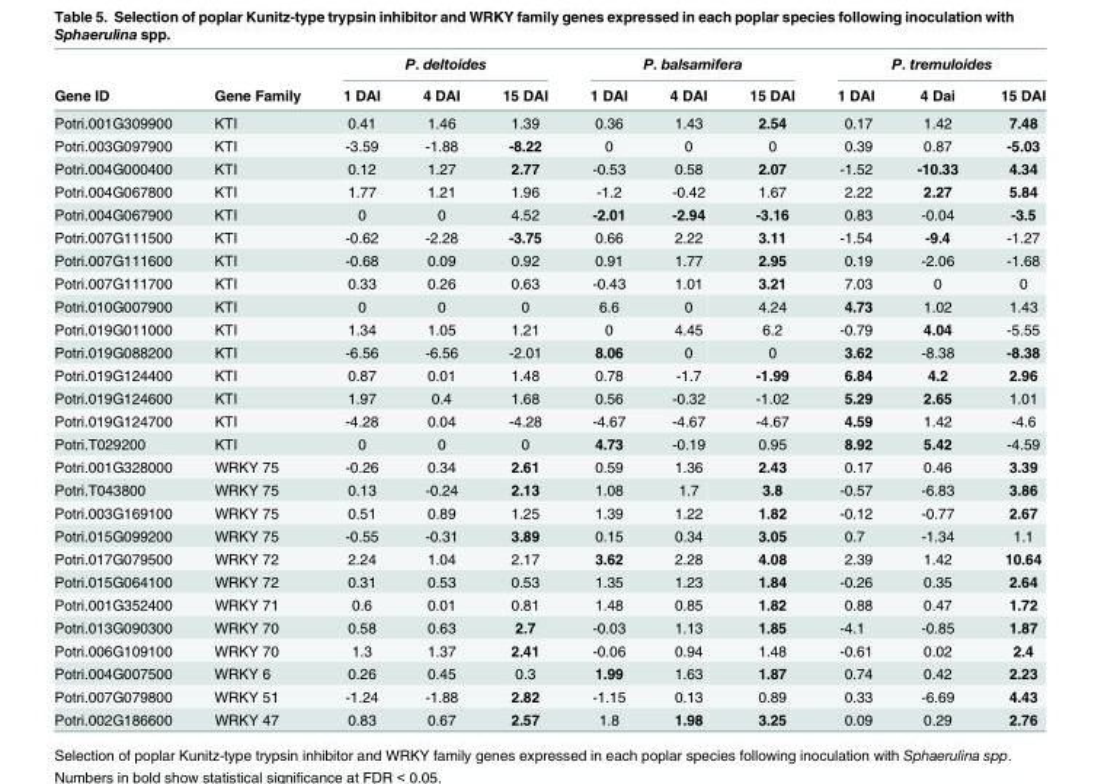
<table><thead><tr><td rowspan="2">Gene ID</td><td rowspan="2">Gene Family</td><td colspan="3">P. deltoides</td><td colspan="3">P. balsamifera</td><td colspan="3">P. tremuloides</td></tr><tr><td>1 DAI</td><td>4 DAI</td><td>15 DAI</td><td>1 DAI</td><td>4 DAI</td><td>15 DAI</td><td>1 DAI</td><td>4 Dai</td><td>15 DAI</td></tr></thead><tbody><tr><td>Potri.001G309900</td><td>KTI</td><td>0.41</td><td>1.46</td><td>1.39</td><td>0.36</td><td>1.43</td><td>2.54</td><td>0.17</td><td>1.42</td><td>7.48</td></tr><tr><td>Potri.003G097900</td><td>KTI</td><td>-3.59</td><td>-1.88</td><td>-8.22</td><td>0</td><td>0</td><td>0</td><td>0.39</td><td>0.87</td><td>-5.03</td></tr><tr><td>Potri.004G000400</td><td>KTI</td><td>0.12</td><td>1.27</td><td>2.77</td><td>-0.53</td><td>0.58</td><td>2.07</td><td>-1.52</td><td>-10.33</td><td>4.34</td></tr><tr><td>Potri.004G067800</td><td>KTI</td><td>1.77</td><td>1.21</td><td>1.96</td><td>-1.2</td><td>-0.42</td><td>1.67</td><td>2.22</td><td>2.27</td><td>5.84</td></tr><tr><td>Potri.004G067900</td><td>KTI</td><td>0</td><td>0</td><td>4.52</td><td>-2.01</td><td>-2.94</td><td>-3.16</td><td>0.83</td><td>-0.04</td><td>-3.5</td></tr><tr><td>Potri.007G111500</td><td>KTI</td><td>-0.62</td><td>-2.28</td><td>-3.75</td><td>0.66</td><td>2.22</td><td>3.11</td><td>-1.54</td><td>-9.4</td><td>-1.27</td></tr><tr><td>Potri.007G111600</td><td>KTI</td><td>-0.68</td><td>0.09</td><td>0.92</td><td>0.91</td><td>1.77</td><td>2.95</td><td>0.19</td><td>-2.06</td><td>-1.68</td></tr><tr><td>Potri.007G111700</td><td>KTI</td><td>0.33</td><td>0.26</td><td>0.63</td><td>-0.43</td><td>1.01</td><td>3.21</td><td>7.03</td><td>0</td><td>0</td></tr><tr><td>Potri.010G007900</td><td>KTI</td><td>0</td><td>0</td><td>0</td><td>6.6</td><td>0</td><td>4.24</td><td>4.73</td><td>1.02</td><td>1.43</td></tr><tr><td>Potri.019G011000</td><td>KTI</td><td>1.34</td><td>1.05</td><td>1.21</td><td>0</td><td>4.45</td><td>6.2</td><td>-0.79</td><td>4.04</td><td>-5.55</td></tr><tr><td>Potri.019G088200</td><td>KTI</td><td>-6.56</td><td>-6.56</td><td>-2.01</td><td>8.06</td><td>0</td><td>0</td><td>3.62</td><td>-8.38</td><td>-8.38</td></tr><tr><td>Potri.019G124400</td><td>KTI</td><td>0.87</td><td>0.01</td><td>1.48</td><td>0.78</td><td>-1.7</td><td>-1.99</td><td>6.84</td><td>4.2</td><td>2.96</td></tr><tr><td>Potri.019G124600</td><td>KTI</td><td>1.97</td><td>0.4</td><td>1.68</td><td>0.56</td><td>-0.32</td><td>-1.02</td><td>5.29</td><td>2.65</td><td>1.01</td></tr><tr><td>Potri.019G124700</td><td>KTI</td><td>-4.28</td><td>0.04</td><td>-4.28</td><td>-4.67</td><td>-4.67</td><td>-4.67</td><td>4.59</td><td>1.42</td><td>-4.6</td></tr><tr><td>Potri.T029200</td><td>KTI</td><td>0</td><td>0</td><td>0</td><td>4.73</td><td>-0.19</td><td>0.95</td><td>8.92</td><td>5.42</td><td>-4.59</td></tr><tr><td>Potri.001G328000</td><td>WRKY 75</td><td>-0.26</td><td>0.34</td><td>2.61</td><td>0.59</td><td>1.36</td><td>2.43</td><td>0.17</td><td>0.46</td><td>3.39</td></tr><tr><td>Potri.T043800</td><td>WRKY 75</td><td>0.13</td><td>-0.24</td><td>2.13</td><td>1.08</td><td>1.7</td><td>3.8</td><td>-0.57</td><td>-6.83</td><td>3.86</td></tr><tr><td>Potri.003G169100</td><td>WRKY 75</td><td>0.51</td><td>0.89</td><td>1.25</td><td>1.39</td><td>1.22</td><td>1.82</td><td>-0.12</td><td>-0.77</td><td>2.67</td></tr><tr><td>Potri.015G099200</td><td>WRKY 75</td><td>-0.55</td><td>-0.31</td><td>3.89</td><td>0.15</td><td>0.34</td><td>3.05</td><td>0.7</td><td>-1.34</td><td>1.1</td></tr><tr><td>Potri.017G079500</td><td>WRKY 72</td><td>2.24</td><td>1.04</td><td>2.17</td><td>3.62</td><td>2.28</td><td>4.08</td><td>2.39</td><td>1.42</td><td>10.64</td></tr><tr><td>Potri.015G064100</td><td>WRKY 72</td><td>0.31</td><td>0.53</td><td>0.53</td><td>1.35</td><td>1.23</td><td>1.84</td><td>-0.26</td><td>0.35</td><td>2.64</td></tr><tr><td>Potri.001G352400</td><td>WRKY 71</td><td>0.6</td><td>0.01</td><td>0.81</td><td>1.48</td><td>0.85</td><td>1.82</td><td>0.88</td><td>0.47</td><td>1.72</td></tr><tr><td>Potri.013G090300</td><td>WRKY 70</td><td>0.58</td><td>0.63</td><td>2.7</td><td>-0.03</td><td>1.13</td><td>1.85</td><td>-4.1</td><td>-0.85</td><td>1.87</td></tr><tr><td>Potri.006G109100</td><td>WRKY 70</td><td>1.3</td><td>1.37</td><td>2.41</td><td>-0.06</td><td>0.94</td><td>1.48</td><td>-0.61</td><td>0.02</td><td>2.4</td></tr><tr><td>Potri.004G007500</td><td>WRKY 6</td><td>0.26</td><td>0.45</td><td>0.3</td><td>1.99</td><td>1.63</td><td>1.87</td><td>0.74</td><td>0.42</td><td>2.23</td></tr><tr><td>Potri.007G079800</td><td>WRKY 51</td><td>-1.24</td><td>-1.88</td><td>2.82</td><td>-1.15</td><td>0.13</td><td>0.89</td><td>0.33</td><td>-6.69</td><td>4.43</td></tr><tr><td>Potri.002G186600</td><td>WRKY 47</td><td>0.83</td><td>0.67</td><td>2.57</td><td>1.8</td><td>1.98</td><td>3.25</td><td>0.09</td><td>0.29</td><td>2.76</td></tr></tbody></table>